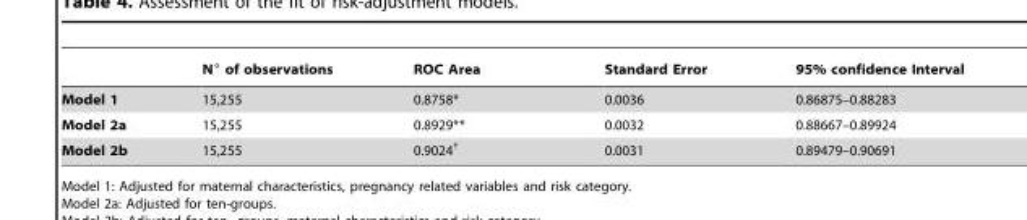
<table><thead><tr><td></td><td>N° of observations</td><td>ROC Area</td><td>Standard Error</td><td>95% confidence Interval</td></tr></thead><tbody><tr><td>Model 1</td><td>15,255</td><td>0.8758*</td><td>0.0036</td><td>0.86875–0.88283</td></tr><tr><td>Model 2a</td><td>15,255</td><td>0.8929**</td><td>0.0032</td><td>0.88667–0.89924</td></tr><tr><td>Model 2b</td><td>15,255</td><td>0.9024<sup>†</sup></td><td>0.0031</td><td>0.89479–0.90691</td></tr></tbody></table>